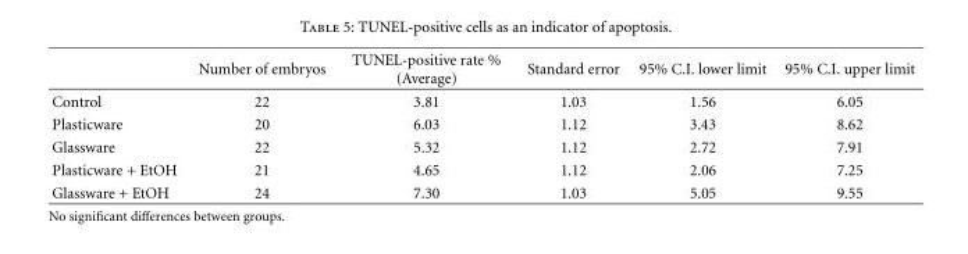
<table><thead><tr><td></td><td>Number of embryos</td><td>TUNEL-positive rate % (Average)</td><td>Standard error</td><td>95% C.I. lower limit</td><td>95% C.I. upper limit</td></tr></thead><tbody><tr><td>Control</td><td>22</td><td>3.81</td><td>1.03</td><td>1.56</td><td>6.05</td></tr><tr><td>Plasticware</td><td>20</td><td>6.03</td><td>1.12</td><td>3.43</td><td>8.62</td></tr><tr><td>Glassware</td><td>22</td><td>5.32</td><td>1.12</td><td>2.72</td><td>7.91</td></tr><tr><td>Plasticware + EtOH</td><td>21</td><td>4.65</td><td>1.12</td><td>2.06</td><td>7.25</td></tr><tr><td>Glassware + EtOH</td><td>24</td><td>7.30</td><td>1.03</td><td>5.05</td><td>9.55</td></tr></tbody></table>